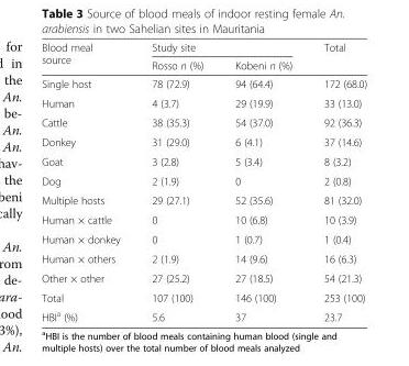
<table><thead><tr><td rowspan="2">Blood meal source</td><td colspan="2">Study site</td><td rowspan="2">Total</td></tr><tr><td>Rosso n (%)</td><td>Kobeni n (%)</td></tr></thead><tbody><tr><td>Single host</td><td>78 (72.9)</td><td>94 (64.4)</td><td>172 (68.0)</td></tr><tr><td>Human</td><td>4 (3.7)</td><td>29 (19.9)</td><td>33 (13.0)</td></tr><tr><td>Cattle</td><td>38 (35.3)</td><td>54 (37.0)</td><td>92 (36.3)</td></tr><tr><td>Donkey</td><td>31 (29.0)</td><td>6 (4.1)</td><td>37 (14.6)</td></tr><tr><td>Goat</td><td>3 (2.8)</td><td>5 (3.4)</td><td>8 (3.2)</td></tr><tr><td>Dog</td><td>2 (1.9)</td><td>0</td><td>2 (0.8)</td></tr><tr><td>Multiple hosts</td><td>29 (27.1)</td><td>52 (35.6)</td><td>81 (32.0)</td></tr><tr><td>Human × cattle</td><td>0</td><td>10 (6.8)</td><td>10 (3.9)</td></tr><tr><td>Human × donkey</td><td>0</td><td>1 (0.7)</td><td>1 (0.4)</td></tr><tr><td>Human × others</td><td>2 (1.9)</td><td>14 (9.6)</td><td>16 (6.3)</td></tr><tr><td>Other × other</td><td>27 (25.2)</td><td>27 (18.5)</td><td>54 (21.3)</td></tr><tr><td>Total</td><td>107 (100)</td><td>146 (100)</td><td>253 (100)</td></tr><tr><td>HBI<sup>a</sup> (%)</td><td>5.6</td><td>37</td><td>23.7</td></tr></tbody></table>